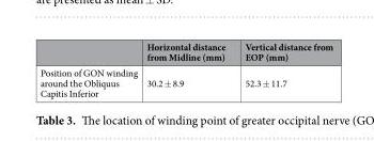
<table><thead><tr><td></td><td>Horizontal distance from Midline (mm)</td><td>Vertical distance from EOP (mm)</td></tr></thead><tbody><tr><td>Position of GON winding around the Obliquus Capitis Inferior</td><td>30.2 ± 8.9</td><td>52.3 ± 11.7</td></tr></tbody></table>